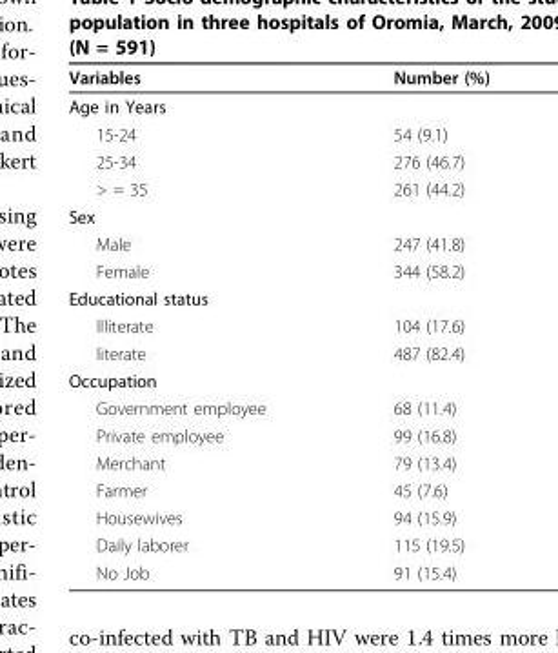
<table><thead><tr><td>Variables</td><td>Number (%)</td></tr></thead><tbody><tr><td colspan="2">Age in Years</td></tr><tr><td>15-24</td><td>54 (9.1)</td></tr><tr><td>25-34</td><td>276 (46.7)</td></tr><tr><td>&gt; = 35</td><td>261 (44.2)</td></tr><tr><td colspan="2">Sex</td></tr><tr><td>Male</td><td>247 (41.8)</td></tr><tr><td>Female</td><td>344 (58.2)</td></tr><tr><td colspan="2">Educational status</td></tr><tr><td>Illiterate</td><td>104 (17.6)</td></tr><tr><td>literate</td><td>487 (82.4)</td></tr><tr><td colspan="2">Occupation</td></tr><tr><td>Government employee</td><td>68 (11.4)</td></tr><tr><td>Private employee</td><td>99 (16.8)</td></tr><tr><td>Merchant</td><td>79 (13.4)</td></tr><tr><td>Farmer</td><td>45 (7.6)</td></tr><tr><td>Housewives</td><td>94 (15.9)</td></tr><tr><td>Daily laborer</td><td>115 (19.5)</td></tr><tr><td>No Job</td><td>91 (15.4)</td></tr></tbody></table>